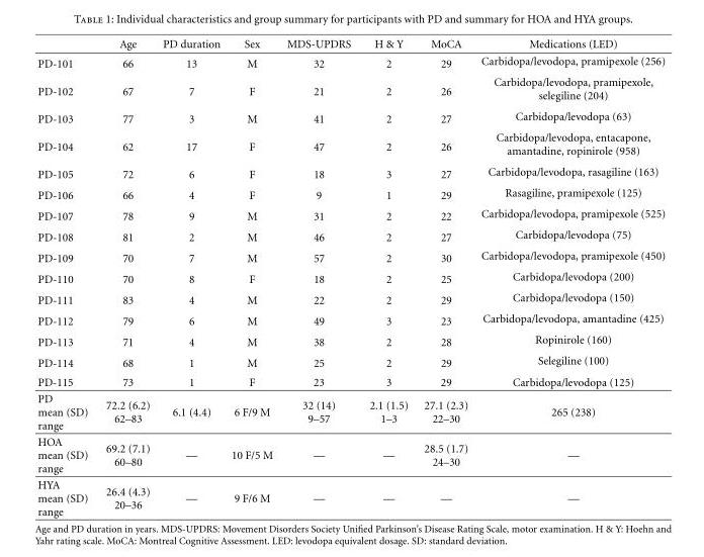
<table><thead><tr><td></td><td>Age</td><td>PD duration</td><td>Sex</td><td>MDS-UPDRS</td><td>H &amp; Y</td><td>MoCA</td><td>Medications (LED)</td></tr></thead><tbody><tr><td>PD-101</td><td>66</td><td>13</td><td>M</td><td>32</td><td>2</td><td>29</td><td>Carbidopa/levodopa, pramipexole (256)</td></tr><tr><td>PD-102</td><td>67</td><td>7</td><td>F</td><td>21</td><td>2</td><td>26</td><td>Carbidopa/levodopa, pramipexole, selegiline (204)</td></tr><tr><td>PD-103</td><td>77</td><td>3</td><td>M</td><td>41</td><td>2</td><td>27</td><td>Carbidopa/levodopa (63)</td></tr><tr><td>PD-104</td><td>62</td><td>17</td><td>F</td><td>47</td><td>2</td><td>26</td><td>Carbidopa/levodopa, entacapone, amantadine, ropinirole (958)</td></tr><tr><td>PD-105</td><td>72</td><td>6</td><td>F</td><td>18</td><td>3</td><td>27</td><td>Carbidopa/levodopa, rasagiline (163)</td></tr><tr><td>PD-106</td><td>66</td><td>4</td><td>F</td><td>9</td><td>1</td><td>29</td><td>Rasagiline, pramipexole (125)</td></tr><tr><td>PD-107</td><td>78</td><td>9</td><td>M</td><td>31</td><td>2</td><td>22</td><td>Carbidopa/levodopa, pramipexole (525)</td></tr><tr><td>PD-108</td><td>81</td><td>2</td><td>M</td><td>46</td><td>2</td><td>27</td><td>Carbidopa/levodopa (75)</td></tr><tr><td>PD-109</td><td>70</td><td>7</td><td>M</td><td>57</td><td>2</td><td>30</td><td>Carbidopa/levodopa, pramipexole (450)</td></tr><tr><td>PD-110</td><td>70</td><td>8</td><td>F</td><td>18</td><td>2</td><td>25</td><td>Carbidopa/levodopa (200)</td></tr><tr><td>PD-111</td><td>83</td><td>4</td><td>M</td><td>22</td><td>2</td><td>29</td><td>Carbidopa/levodopa (150)</td></tr><tr><td>PD-112</td><td>79</td><td>6</td><td>M</td><td>49</td><td>3</td><td>23</td><td>Carbidopa/levodopa, amantadine (425)</td></tr><tr><td>PD-113</td><td>71</td><td>4</td><td>M</td><td>38</td><td>2</td><td>28</td><td>Ropinirole (160)</td></tr><tr><td>PD-114</td><td>68</td><td>1</td><td>M</td><td>25</td><td>2</td><td>29</td><td>Selegiline (100)</td></tr><tr><td>PD-115</td><td>73</td><td>1</td><td>F</td><td>23</td><td>3</td><td>29</td><td>Carbidopa/levodopa (125)</td></tr><tr><td>PD mean (SD) range</td><td>72.2 (6.2) 62–83</td><td>6.1 (4.4)</td><td>6 F/9 M</td><td>32 (14) 9–57</td><td>2.1 (1.5) 1–3</td><td>27.1 (2.3) 22–30</td><td>265 (238)</td></tr><tr><td>HOA mean (SD) range</td><td>69.2 (7.1) 60–80</td><td>—</td><td>10 F/5 M</td><td>—</td><td>—</td><td>28.5 (1.7) 24–30</td><td>—</td></tr><tr><td>HYA mean (SD) range</td><td>26.4 (4.3) 20–36</td><td>—</td><td>9 F/6 M</td><td>—</td><td>—</td><td>—</td><td>—</td></tr></tbody></table>